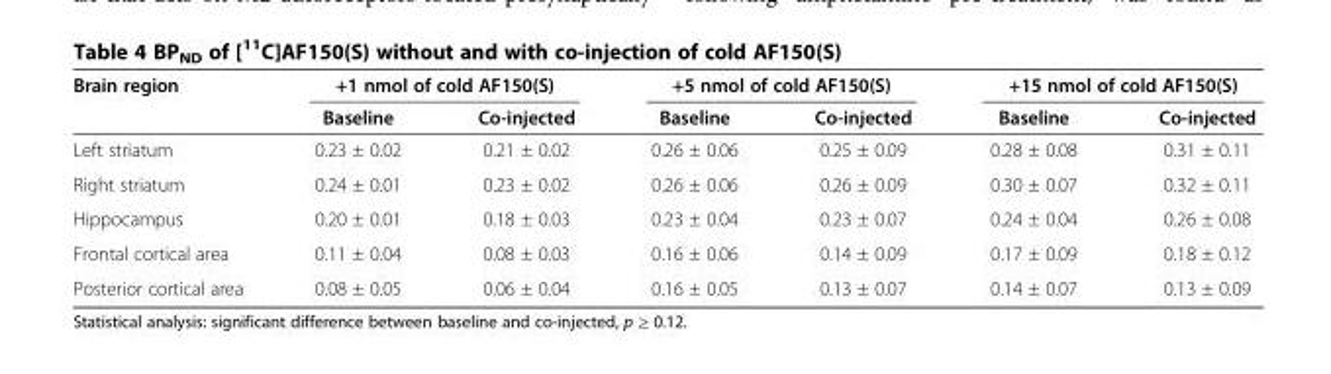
<table><thead><tr><td rowspan="2">Brain region</td><td colspan="2">+1 nmol of cold AF150(S)</td><td colspan="2">+5 nmol of cold AF150(S)</td><td colspan="2">+15 nmol of cold AF150(S)</td></tr><tr><td>Baseline</td><td>Co-injected</td><td>Baseline</td><td>Co-injected</td><td>Baseline</td><td>Co-injected</td></tr></thead><tbody><tr><td>Left striatum</td><td>0.23 ± 0.02</td><td>0.21 ± 0.02</td><td>0.26 ± 0.06</td><td>0.25 ± 0.09</td><td>0.28 ± 0.08</td><td>0.31 ± 0.11</td></tr><tr><td>Right striatum</td><td>0.24 ± 0.01</td><td>0.23 ± 0.02</td><td>0.26 ± 0.06</td><td>0.26 ± 0.09</td><td>0.30 ± 0.07</td><td>0.32 ± 0.11</td></tr><tr><td>Hippocampus</td><td>0.20 ± 0.01</td><td>0.18 ± 0.03</td><td>0.23 ± 0.04</td><td>0.23 ± 0.07</td><td>0.24 ± 0.04</td><td>0.26 ± 0.08</td></tr><tr><td>Frontal cortical area</td><td>0.11 ± 0.04</td><td>0.08 ± 0.03</td><td>0.16 ± 0.06</td><td>0.14 ± 0.09</td><td>0.17 ± 0.09</td><td>0.18 ± 0.12</td></tr><tr><td>Posterior cortical area</td><td>0.08 ± 0.05</td><td>0.06 ± 0.04</td><td>0.16 ± 0.05</td><td>0.13 ± 0.07</td><td>0.14 ± 0.07</td><td>0.13 ± 0.09</td></tr></tbody></table>